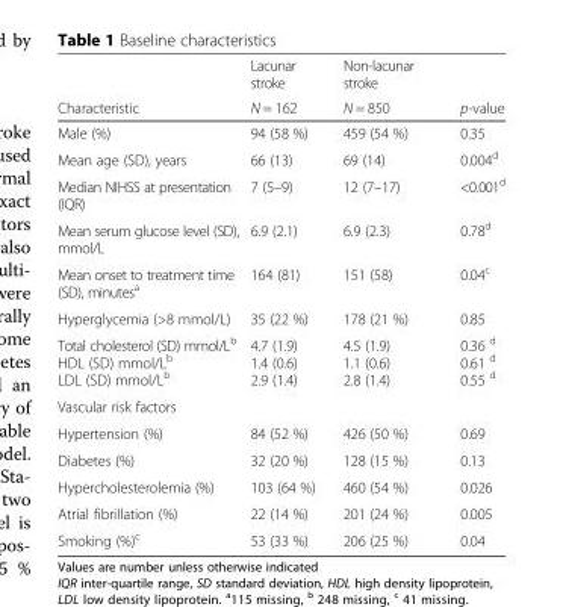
<table><thead><tr><td rowspan="2">Characteristic</td><td rowspan="2">Lacunar stroke N = 162</td><td rowspan="2">Non-lacunar stroke N = 850</td><td rowspan="2">p-value</td></tr><tr></tr></thead><tbody><tr><td>Male (%)</td><td>94 (58 %)</td><td>459 (54 %)</td><td>0.35</td></tr><tr><td>Mean age (SD), years</td><td>66 (13)</td><td>69 (14)</td><td>0.004<sup>d</sup></td></tr><tr><td>Median NIHSS at presentation (IQR)</td><td>7 (5–9)</td><td>12 (7–17)</td><td>&lt;0.001<sup>d</sup></td></tr><tr><td>Mean serum glucose level (SD), mmol/L</td><td>6.9 (2.1)</td><td>6.9 (2.3)</td><td>0.78<sup>d</sup></td></tr><tr><td>Mean onset to treatment time (SD), minutes<sup>a</sup></td><td>164 (81)</td><td>151 (58)</td><td>0.04<sup>c</sup></td></tr><tr><td>Hyperglycemia (&gt;8 mmol/L)</td><td>35 (22 %)</td><td>178 (21 %)</td><td>0.85</td></tr><tr><td>Total cholesterol (SD) mmol/L<sup>b</sup> HDL (SD) mmol/L<sup>b</sup> LDL (SD) mmol/L<sup>b</sup></td><td>4.7 (1.9) 1.4 (0.6) 2.9 (1.4)</td><td>4.5 (1.9) 1.1 (0.6) 2.8 (1.4)</td><td>0.36 <sup>d</sup> 0.61 <sup>d</sup> 0.55 <sup>d</sup></td></tr><tr><td colspan="4">Vascular risk factors</td></tr><tr><td>Hypertension (%)</td><td>84 (52 %)</td><td>426 (50 %)</td><td>0.69</td></tr><tr><td>Diabetes (%)</td><td>32 (20 %)</td><td>128 (15 %)</td><td>0.13</td></tr><tr><td>Hypercholesterolemia (%)</td><td>103 (64 %)</td><td>460 (54 %)</td><td>0.026</td></tr><tr><td>Atrial fibrillation (%)</td><td>22 (14 %)</td><td>201 (24 %)</td><td>0.005</td></tr><tr><td>Smoking (%)<sup>c</sup></td><td>53 (33 %)</td><td>206 (25 %)</td><td>0.04</td></tr></tbody></table>